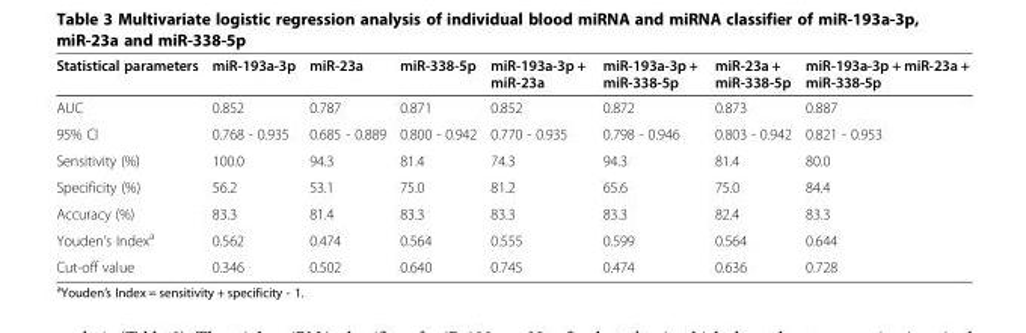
<table><thead><tr><td>Statistical parameters</td><td>miR-193a-3p</td><td>miR-23a</td><td>miR-338-5p</td><td>miR-193a-3p + miR-23a</td><td>miR-193a-3p + miR-338-5p</td><td>miR-23a + miR-338-5p</td><td>miR-193a-3p + miR-23a + miR-338-5p</td></tr></thead><tbody><tr><td>AUC</td><td>0.852</td><td>0.787</td><td>0.871</td><td>0.852</td><td>0.872</td><td>0.873</td><td>0.887</td></tr><tr><td>95% CI</td><td>0.768 - 0.935</td><td>0.685 - 0.889</td><td>0.800 - 0.942</td><td>0.770 - 0.935</td><td>0.798 - 0.946</td><td>0.803 - 0.942</td><td>0.821 - 0.953</td></tr><tr><td>Sensitivity (%)</td><td>100.0</td><td>94.3</td><td>81.4</td><td>74.3</td><td>94.3</td><td>81.4</td><td>80.0</td></tr><tr><td>Specificity (%)</td><td>56.2</td><td>53.1</td><td>75.0</td><td>81.2</td><td>65.6</td><td>75.0</td><td>84.4</td></tr><tr><td>Accuracy (%)</td><td>83.3</td><td>81.4</td><td>83.3</td><td>83.3</td><td>83.3</td><td>82.4</td><td>83.3</td></tr><tr><td>Youden’s Index<sup>a</sup></td><td>0.562</td><td>0.474</td><td>0.564</td><td>0.555</td><td>0.599</td><td>0.564</td><td>0.644</td></tr><tr><td>Cut-off value</td><td>0.346</td><td>0.502</td><td>0.640</td><td>0.745</td><td>0.474</td><td>0.636</td><td>0.728</td></tr></tbody></table>